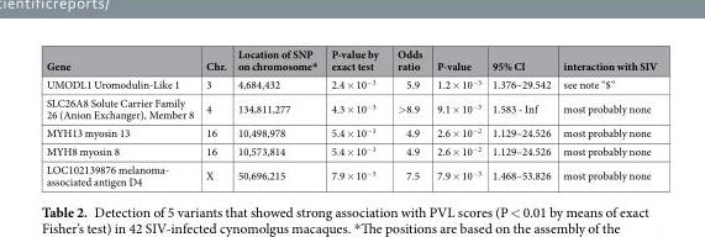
<table><thead><tr><td>Gene</td><td>Chr.</td><td>Location of SNP on chromosome*</td><td>P-value by exact test</td><td>Odds ratio</td><td>P-value</td><td>95% Cl</td><td>interaction with SIV</td></tr></thead><tbody><tr><td>UMODL1 Uromodulin-Like 1</td><td>3</td><td>4,684,432</td><td>2.4 × 10<sup>−3</sup></td><td>5.9</td><td>1.2 × 10<sup>−3</sup></td><td>1.376–29.542</td><td>see note “$“</td></tr><tr><td>SLC26A8 Solute Carrier Family 26 (Anion Exchanger), Member 8</td><td>4</td><td>134,811,277</td><td>4.3 × 10<sup>−3</sup></td><td>&gt;8.9</td><td>9.1 × 10<sup>−3</sup></td><td>1.583 - Inf</td><td>most probably none</td></tr><tr><td>MYH13 myosin 13</td><td>16</td><td>10,498,978</td><td>5.4 × 10<sup>−3</sup></td><td>4.9</td><td>2.6 × 10<sup>−2</sup></td><td>1.129–24.526</td><td>most probably none</td></tr><tr><td>MYH8 myosin 8</td><td>16</td><td>10,573,814</td><td>5.4 × 10<sup>−3</sup></td><td>4.9</td><td>2.6 × 10<sup>−2</sup></td><td>1.129–24.526</td><td>most probably none</td></tr><tr><td>LOC102139876 melanoma- associated antigen D4</td><td>X</td><td>50,696,215</td><td>7.9 × 10<sup>−3</sup></td><td>7.5</td><td>7.9 × 10<sup>−3</sup></td><td>1.468–53.826</td><td>most probably none</td></tr></tbody></table>